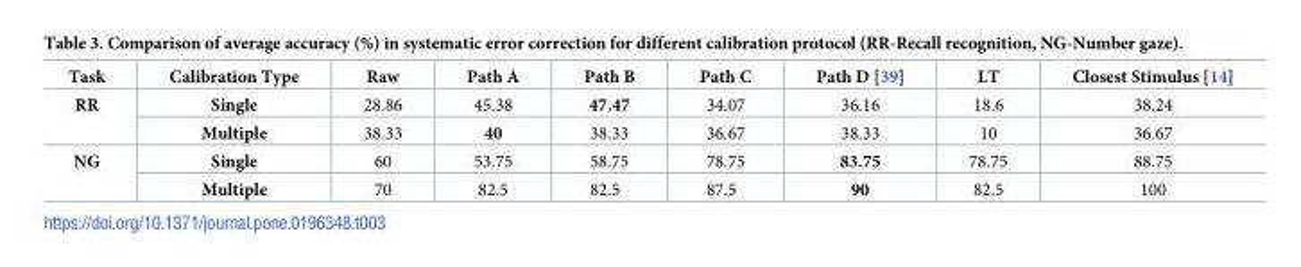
<table><thead><tr><td>Task</td><td>Calibration Type</td><td>Raw</td><td>Path A</td><td>Path B</td><td>Path C</td><td>Path D [39]</td><td>LT</td><td>Closest Stimulus [14]</td></tr></thead><tbody><tr><td rowspan="2">RR</td><td>Single</td><td>28.86</td><td>45.38</td><td>47.47</td><td>34.07</td><td>36.16</td><td>18.6</td><td>38.24</td></tr><tr><td>Multiple</td><td>38.33</td><td>40</td><td>38.33</td><td>36.67</td><td>38.33</td><td>10</td><td>36.67</td></tr><tr><td rowspan="2">NG</td><td>Single</td><td>60</td><td>53.75</td><td>58.75</td><td>78.75</td><td>83.75</td><td>78.75</td><td>88.75</td></tr><tr><td>Multiple</td><td>70</td><td>82.5</td><td>82.5</td><td>87.5</td><td>90</td><td>82.5</td><td>100</td></tr></tbody></table>